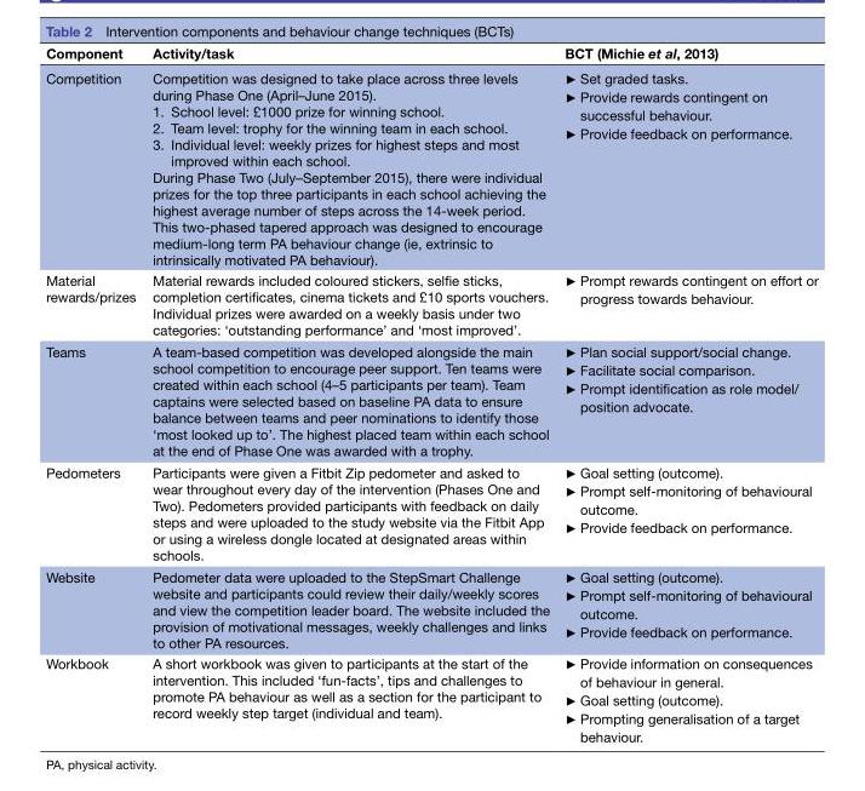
<table><thead><tr><td>Component</td><td>Activity/task</td><td>BCT (Michie et al, 2013)</td></tr></thead><tbody><tr><td>Competition</td><td>Competition was designed to take place across three levels during Phase One (April–June 2015). 1. School level: £1000 prize for winning school. 2. Team level: trophy for the winning team in each school. 3. Individual level: weekly prizes for highest steps and most improved within each school. During Phase Two (July–September 2015), there were individual prizes for the top three participants in each school achieving the highest average number of steps across the 14-week period. This two-phased tapered approach was designed to encourage medium-long term PA behaviour change (ie, extrinsic to intrinsically motivated PA behaviour).</td><td>► Set graded tasks. ► Provide rewards contingent on successful behaviour. ► Provide feedback on performance.</td></tr><tr><td>Material rewards/prizes</td><td>Material rewards included coloured stickers, selfie sticks, completion certificates, cinema tickets and £10 sports vouchers. Individual prizes were awarded on a weekly basis under two categories: ‘outstanding performance’ and ‘most improved’.</td><td>► Prompt rewards contingent on effort or progress towards behaviour.</td></tr><tr><td>Teams</td><td>A team-based competition was developed alongside the main school competition to encourage peer support. Ten teams were created within each school (4–5 participants per team). Team captains were selected based on baseline PA data to ensure balance between teams and peer nominations to identify those ‘most looked up to’. The highest placed team within each school at the end of Phase One was awarded with a trophy.</td><td>► Plan social support/social change. ► Facilitate social comparison. ► Prompt identification as role model/ position advocate.</td></tr><tr><td>Pedometers</td><td>Participants were given a Fitbit Zip pedometer and asked to wear throughout every day of the intervention (Phases One and Two). Pedometers provided participants with feedback on daily steps and were uploaded to the study website via the Fitbit App or using a wireless dongle located at designated areas within schools.</td><td>► Goal setting (outcome). ► Prompt self-monitoring of behavioural outcome. ► Provide feedback on performance.</td></tr><tr><td>Website</td><td>Pedometer data were uploaded to the StepSmart Challenge website and participants could review their daily/weekly scores and view the competition leader board. The website included the provision of motivational messages, weekly challenges and links to other PA resources.</td><td>► Goal setting (outcome). ► Prompt self-monitoring of behavioural outcome. ► Provide feedback on performance.</td></tr><tr><td>Workbook</td><td>A short workbook was given to participants at the start of the intervention. This included ‘fun-facts’, tips and challenges to promote PA behaviour as well as a section for the participant to record weekly step target (individual and team).</td><td>► Provide information on consequences of behaviour in general. ► Goal setting (outcome). ► Prompting generalisation of a target behaviour.</td></tr></tbody></table>